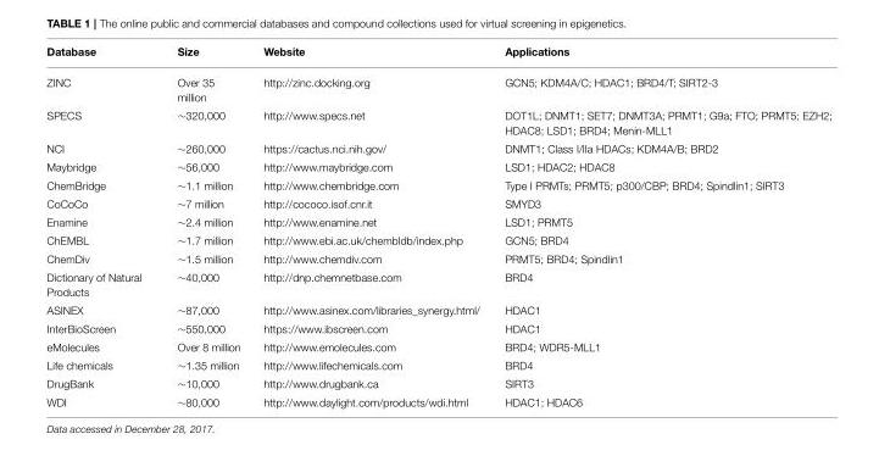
<table><thead><tr><td>Database</td><td>Size</td><td>Website</td><td>Applications</td></tr></thead><tbody><tr><td>ZINC</td><td>Over 35 million</td><td>http://zinc.docking.org</td><td>GCN5; KDM4A/C; HDAC1; BRD4/T; SIRT2-3</td></tr><tr><td>SPECS</td><td>∼320,000</td><td>http://www.specs.net</td><td>DOT1L; DNMT1; SET7; DNMT3A; PRMT1; G9a; FTO; PRMT5; EZH2; HDAC8; LSD1; BRD4; Menin-MLL1</td></tr><tr><td>NCI</td><td>∼260,000</td><td>https://cactus.nci.nih.gov/</td><td>DNMT1; Class I/IIa HDACs; KDM4A/B; BRD2</td></tr><tr><td>Maybridge</td><td>∼56,000</td><td>http://www.maybridge.com</td><td>LSD1; HDAC2; HDAC8</td></tr><tr><td>ChemBridge</td><td>∼1.1 million</td><td>http://www.chembridge.com</td><td>Type I PRMTs; PRMT5; p300/CBP; BRD4; Spindlin1; SIRT3</td></tr><tr><td>CoCoCo</td><td>∼7 million</td><td>http://cococo.isof.cnr.it</td><td>SMYD3</td></tr><tr><td>Enamine</td><td>∼2.4 million</td><td>http://www.enamine.net</td><td>LSD1; PRMT5</td></tr><tr><td>ChEMBL</td><td>∼1.7 million</td><td>http://www.ebi.ac.uk/chembldb/index.php</td><td>GCN5; BRD4</td></tr><tr><td>ChemDiv</td><td>∼1.5 million</td><td>http://www.chemdiv.com</td><td>PRMT5; BRD4; Spindlin1</td></tr><tr><td>Dictionary of Natural Products</td><td>∼40,000</td><td>http://dnp.chemnetbase.com</td><td>BRD4</td></tr><tr><td>ASINEX</td><td>∼87,000</td><td>http://www.asinex.com/libraries_synergy.html/</td><td>HDAC1</td></tr><tr><td>InterBioScreen</td><td>∼550,000</td><td>https://www.ibscreen.com</td><td>HDAC1</td></tr><tr><td>eMolecules</td><td>Over 8 million</td><td>http://www.emolecules.com</td><td>BRD4; WDR5-MLL1</td></tr><tr><td>Life chemicals</td><td>∼1.35 million</td><td>http://www.lifechemicals.com</td><td>BRD4</td></tr><tr><td>DrugBank</td><td>∼10,000</td><td>http://www.drugbank.ca</td><td>SIRT3</td></tr><tr><td>WDI</td><td>∼80,000</td><td>http://www.daylight.com/products/wdi.html</td><td>HDAC1; HDAC6</td></tr></tbody></table>